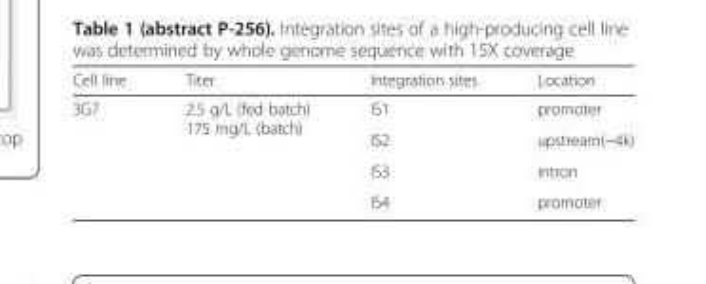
<table><thead><tr><td>Cell line</td><td>Titer</td><td>Integration sites</td><td>Location</td></tr></thead><tbody><tr><td rowspan="4">3G7</td><td rowspan="4">2.5 g/L (fed batch) 175 mg/L (batch)</td><td>IS1</td><td>promoter</td></tr><tr><td>IS2</td><td>upstream(~4k)</td></tr><tr><td>IS3</td><td>intron</td></tr><tr><td>IS4</td><td>promoter</td></tr></tbody></table>